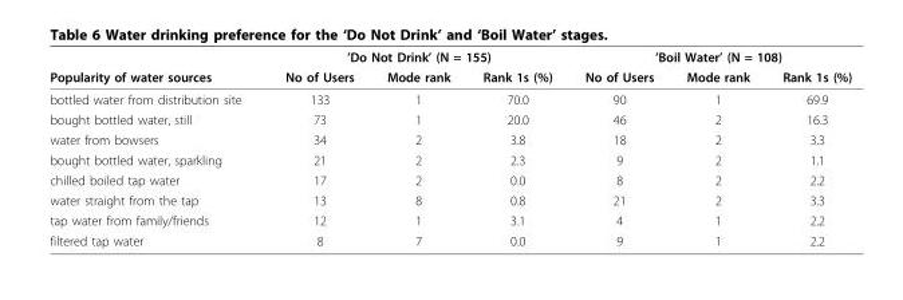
<table><thead><tr><td rowspan="2">Popularity of water sources</td><td colspan="3">’Do Not Drink’ (N = 155)</td><td colspan="3">’Boil Water’ (N = 108)</td></tr><tr><td>No of Users</td><td>Mode rank</td><td>Rank 1s (%)</td><td>No of Users</td><td>Mode rank</td><td>Rank 1s (%)</td></tr></thead><tbody><tr><td>bottled water from distribution site</td><td>133</td><td>1</td><td>70.0</td><td>90</td><td>1</td><td>69.9</td></tr><tr><td>bought bottled water, still</td><td>73</td><td>1</td><td>20.0</td><td>46</td><td>2</td><td>16.3</td></tr><tr><td>water from bowsers</td><td>34</td><td>2</td><td>3.8</td><td>18</td><td>2</td><td>3.3</td></tr><tr><td>bought bottled water, sparkling</td><td>21</td><td>2</td><td>2.3</td><td>9</td><td>2</td><td>1.1</td></tr><tr><td>chilled boiled tap water</td><td>17</td><td>2</td><td>0.0</td><td>8</td><td>2</td><td>2.2</td></tr><tr><td>water straight from the tap</td><td>13</td><td>8</td><td>0.8</td><td>21</td><td>2</td><td>3.3</td></tr><tr><td>tap water from family/friends</td><td>12</td><td>1</td><td>3.1</td><td>4</td><td>1</td><td>2.2</td></tr><tr><td>filtered tap water</td><td>8</td><td>7</td><td>0.0</td><td>9</td><td>1</td><td>2.2</td></tr></tbody></table>